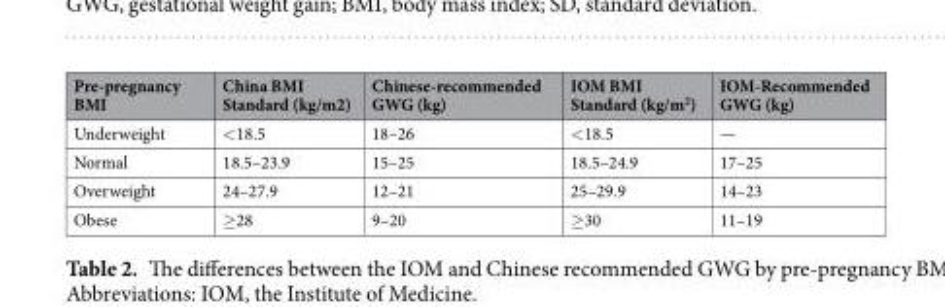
<table><thead><tr><td>Pre-pregnancy BMI</td><td>China BMI Standard (kg/m2)</td><td>Chinese-recommended GWG (kg)</td><td>IOM BMI Standard (kg/m<sup>2</sup>)</td><td>IOM-Recommended GWG (kg)</td></tr></thead><tbody><tr><td>Underweight</td><td>&lt;18.5</td><td>18–26</td><td>&lt;18.5</td><td>—</td></tr><tr><td>Normal</td><td>18.5–23.9</td><td>15–25</td><td>18.5–24.9</td><td>17–25</td></tr><tr><td>Overweight</td><td>24–27.9</td><td>12–21</td><td>25–29.9</td><td>14–23</td></tr><tr><td>Obese</td><td>≥28</td><td>9–20</td><td>≥30</td><td>11–19</td></tr></tbody></table>